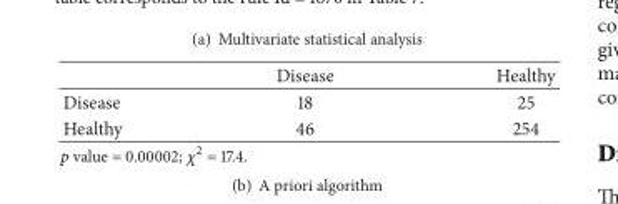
<table><thead><tr><td></td><td>Disease</td><td>Healthy</td></tr></thead><tbody><tr><td>Disease</td><td>18</td><td>25</td></tr><tr><td>Healthy</td><td>46</td><td>254</td></tr></tbody></table>